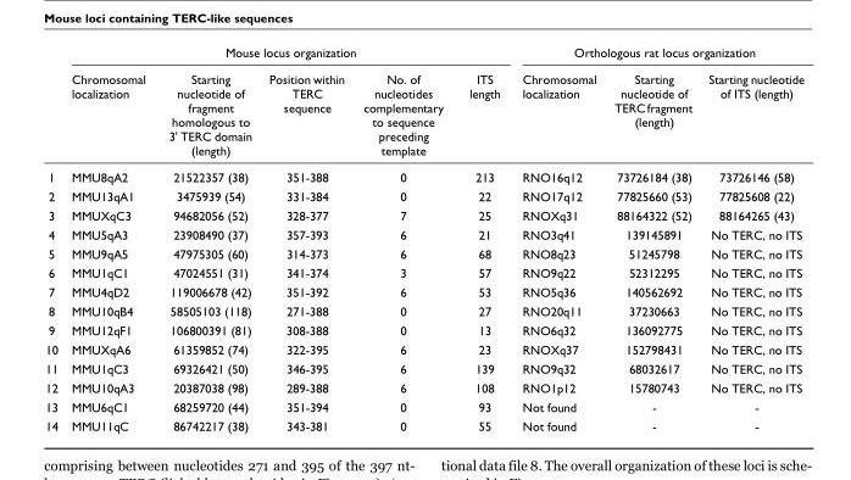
<table><thead><tr><td rowspan="2"></td><td colspan="5">Mouse locus organization</td><td colspan="3">Orthologous rat locus organization</td></tr><tr><td>Chromosomal localization</td><td>Starting nucleotide of fragment homologous to 3&#x27; TERC domain (length)</td><td>Position within TERC sequence</td><td>No. of nucleotides complementary to sequence preceding template</td><td>ITS length</td><td>Chromosomal localization</td><td>Starting nucleotide of TERC fragment (length)</td><td>Starting nucleotide of ITS (length)</td></tr></thead><tbody><tr><td>1</td><td>MMU8qA2</td><td>21522357 (38)</td><td>351-388</td><td>0</td><td>213</td><td>RNO16q12</td><td>73726184 (38)</td><td>73726146 (58)</td></tr><tr><td>2</td><td>MMU13qA1</td><td>3475939 (54)</td><td>331-384</td><td>0</td><td>22</td><td>RNO17q12</td><td>77825660 (53)</td><td>77825608 (22)</td></tr><tr><td>3</td><td>MMUXqC3</td><td>94682056 (52)</td><td>328-377</td><td>7</td><td>25</td><td>RNOXq31</td><td>88164322 (52)</td><td>88164265 (43)</td></tr><tr><td>4</td><td>MMU5qA3</td><td>23908490 (37)</td><td>357-393</td><td>6</td><td>21</td><td>RNO3q41</td><td>139145891</td><td>No TERC, no ITS</td></tr><tr><td>5</td><td>MMU9qA5</td><td>47975305 (60)</td><td>314-373</td><td>6</td><td>68</td><td>RNO8q23</td><td>51245798</td><td>No TERC, no ITS</td></tr><tr><td>6</td><td>MMU1qC1</td><td>47024551 (31)</td><td>341-374</td><td>3</td><td>57</td><td>RNO9q22</td><td>52312295</td><td>No TERC, no ITS</td></tr><tr><td>7</td><td>MMU4qD2</td><td>119006678 (42)</td><td>351-392</td><td>6</td><td>53</td><td>RNO5q36</td><td>140562692</td><td>No TERC, no ITS</td></tr><tr><td>8</td><td>MMU10qB4</td><td>58505103 (118)</td><td>271-388</td><td>0</td><td>27</td><td>RNO20q11</td><td>37230663</td><td>No TERC, no ITS</td></tr><tr><td>9</td><td>MMU12qF1</td><td>106800391 (81)</td><td>308-388</td><td>0</td><td>13</td><td>RNO6q32</td><td>136092775</td><td>No TERC, no ITS</td></tr><tr><td>10</td><td>MMUXqA6</td><td>61359852 (74)</td><td>322-395</td><td>6</td><td>23</td><td>RNOXq37</td><td>152798431</td><td>No TERC, no ITS</td></tr><tr><td>11</td><td>MMU1qC3</td><td>69326421 (50)</td><td>346-395</td><td>6</td><td>139</td><td>RNO9q32</td><td>68032617</td><td>No TERC, no ITS</td></tr><tr><td>12</td><td>MMU10qA3</td><td>20387038 (98)</td><td>289-388</td><td>6</td><td>108</td><td>RNO1p12</td><td>15780743</td><td>No TERC, no ITS</td></tr><tr><td>13</td><td>MMU6qC1</td><td>68259720 (44)</td><td>351-394</td><td>0</td><td>93</td><td>Not found</td><td>-</td><td>-</td></tr><tr><td>14</td><td>MMU11qC</td><td>86742217 (38)</td><td>343-381</td><td>0</td><td>55</td><td>Not found</td><td>-</td><td>-</td></tr></tbody></table>